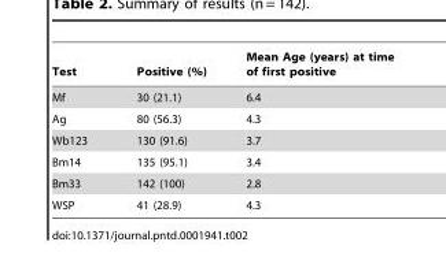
<table><thead><tr><td>Test</td><td>Positive (%)</td><td>Mean Age (years) at time of first positive</td></tr></thead><tbody><tr><td>Mf</td><td>30 (21.1)</td><td>6.4</td></tr><tr><td>Ag</td><td>80 (56.3)</td><td>4.3</td></tr><tr><td>Wb123</td><td>130 (91.6)</td><td>3.7</td></tr><tr><td>Bm14</td><td>135 (95.1)</td><td>3.4</td></tr><tr><td>Bm33</td><td>142 (100)</td><td>2.8</td></tr><tr><td>WSP</td><td>41 (28.9)</td><td>4.3</td></tr></tbody></table>